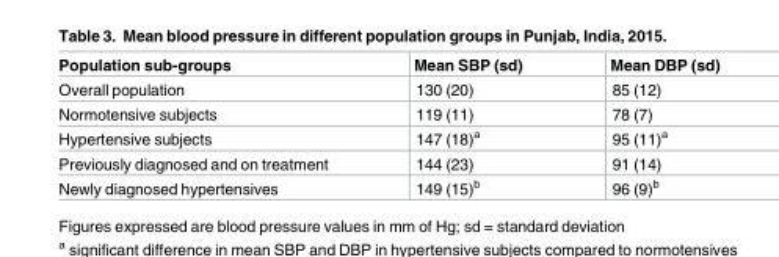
<table><thead><tr><td>Population sub-groups</td><td>Mean SBP (sd)</td><td>Mean DBP (sd)</td></tr></thead><tbody><tr><td>Overall population</td><td>130 (20)</td><td>85 (12)</td></tr><tr><td>Normotensive subjects</td><td>119 (11)</td><td>78 (7)</td></tr><tr><td>Hypertensive subjects</td><td>147 (18)<sup>a</sup></td><td>95 (11)<sup>a</sup></td></tr><tr><td>Previously diagnosed and on treatment</td><td>144 (23)</td><td>91 (14)</td></tr><tr><td>Newly diagnosed hypertensives</td><td>149 (15)<sup>b</sup></td><td>96 (9)<sup>b</sup></td></tr></tbody></table>